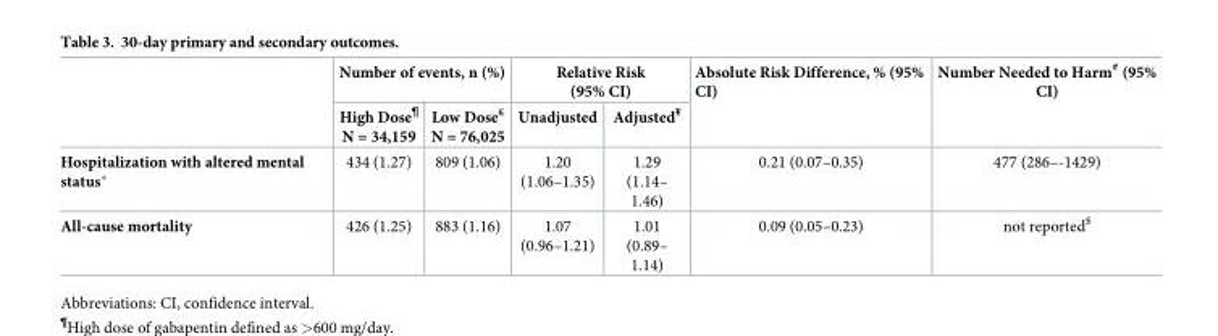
<table><thead><tr><td rowspan="2"></td><td colspan="2">Number of events, n (%)</td><td colspan="2">Relative Risk (95% CI)</td><td rowspan="2">Absolute Risk Difference, % (95% CI)</td><td rowspan="2">Number Needed to Harm<sup>#</sup> (95% CI)</td></tr><tr><td>High Dose<sup>¶</sup> N = 34,159</td><td>Low Dose<sup>£</sup> N = 76,025</td><td>Unadjusted</td><td>Adjusted<sup>¥</sup></td></tr></thead><tbody><tr><td>Hospitalization with altered mental status*</td><td>434 (1.27)</td><td>809 (1.06)</td><td>1.20 (1.06–1.35)</td><td>1.29 (1.14– 1.46)</td><td>0.21 (0.07–0.35)</td><td>477 (286–-1429)</td></tr><tr><td>All-cause mortality</td><td>426 (1.25)</td><td>883 (1.16)</td><td>1.07 (0.96–1.21)</td><td>1.01 (0.89– 1.14)</td><td>0.09 (0.05–0.23)</td><td>not reported<sup>$</sup></td></tr></tbody></table>